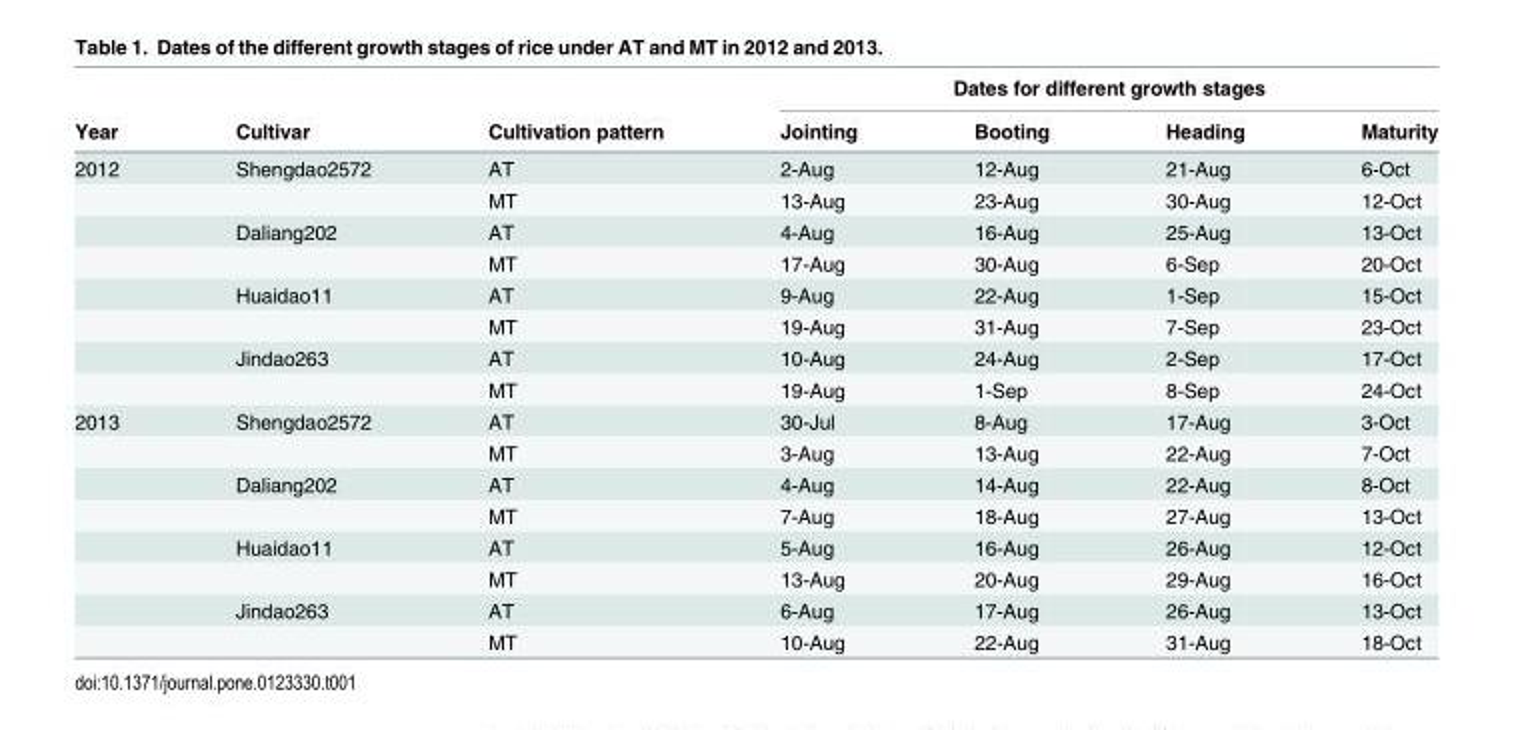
<table><thead><tr><td rowspan="2">Year</td><td rowspan="2">Cultivar</td><td rowspan="2">Cultivation pattern</td><td colspan="4">Dates for different growth stages</td></tr><tr><td>Jointing</td><td>Booting</td><td>Heading</td><td>Maturity</td></tr></thead><tbody><tr><td rowspan="8">2012</td><td>Shengdao2572</td><td>AT</td><td>2-Aug</td><td>12-Aug</td><td>21-Aug</td><td>6-Oct</td></tr><tr><td></td><td>MT</td><td>13-Aug</td><td>23-Aug</td><td>30-Aug</td><td>12-Oct</td></tr><tr><td>Daliang202</td><td>AT</td><td>4-Aug</td><td>16-Aug</td><td>25-Aug</td><td>13-Oct</td></tr><tr><td></td><td>MT</td><td>17-Aug</td><td>30-Aug</td><td>6-Sep</td><td>20-Oct</td></tr><tr><td>Huaidao11</td><td>AT</td><td>9-Aug</td><td>22-Aug</td><td>1-Sep</td><td>15-Oct</td></tr><tr><td></td><td>MT</td><td>19-Aug</td><td>31-Aug</td><td>7-Sep</td><td>23-Oct</td></tr><tr><td>Jindao263</td><td>AT</td><td>10-Aug</td><td>24-Aug</td><td>2-Sep</td><td>17-Oct</td></tr><tr><td></td><td>MT</td><td>19-Aug</td><td>1-Sep</td><td>8-Sep</td><td>24-Oct</td></tr><tr><td rowspan="8">2013</td><td>Shengdao2572</td><td>AT</td><td>30-Jul</td><td>8-Aug</td><td>17-Aug</td><td>3-Oct</td></tr><tr><td></td><td>MT</td><td>3-Aug</td><td>13-Aug</td><td>22-Aug</td><td>7-Oct</td></tr><tr><td>Daliang202</td><td>AT</td><td>4-Aug</td><td>14-Aug</td><td>22-Aug</td><td>8-Oct</td></tr><tr><td></td><td>MT</td><td>7-Aug</td><td>18-Aug</td><td>27-Aug</td><td>13-Oct</td></tr><tr><td>Huaidao11</td><td>AT</td><td>5-Aug</td><td>16-Aug</td><td>26-Aug</td><td>12-Oct</td></tr><tr><td></td><td>MT</td><td>13-Aug</td><td>20-Aug</td><td>29-Aug</td><td>16-Oct</td></tr><tr><td>Jindao263</td><td>AT</td><td>6-Aug</td><td>17-Aug</td><td>26-Aug</td><td>13-Oct</td></tr><tr><td></td><td>MT</td><td>10-Aug</td><td>22-Aug</td><td>31-Aug</td><td>18-Oct</td></tr></tbody></table>